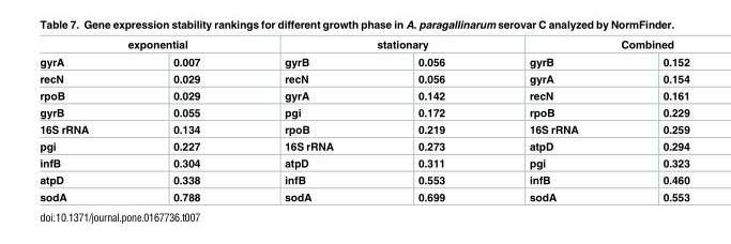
<table><thead><tr><td colspan="2">exponential</td><td colspan="2">stationary</td><td colspan="2">Combined</td></tr><tr><td>gyrA</td><td>0.007</td><td>gyrB</td><td>0.056</td><td>gyrB</td><td>0.152</td></tr></thead><tbody><tr><td>recN</td><td>0.029</td><td>recN</td><td>0.056</td><td>gyrA</td><td>0.154</td></tr><tr><td>rpoB</td><td>0.029</td><td>gyrA</td><td>0.142</td><td>recN</td><td>0.161</td></tr><tr><td>gyrB</td><td>0.055</td><td>pgi</td><td>0.172</td><td>rpoB</td><td>0.229</td></tr><tr><td>16S rRNA</td><td>0.134</td><td>rpoB</td><td>0.219</td><td>16S rRNA</td><td>0.259</td></tr><tr><td>pgi</td><td>0.227</td><td>16S rRNA</td><td>0.273</td><td>atpD</td><td>0.294</td></tr><tr><td>infB</td><td>0.304</td><td>atpD</td><td>0.311</td><td>pgi</td><td>0.323</td></tr><tr><td>atpD</td><td>0.338</td><td>infB</td><td>0.553</td><td>infB</td><td>0.460</td></tr><tr><td>sodA</td><td>0.788</td><td>sodA</td><td>0.699</td><td>sodA</td><td>0.553</td></tr></tbody></table>